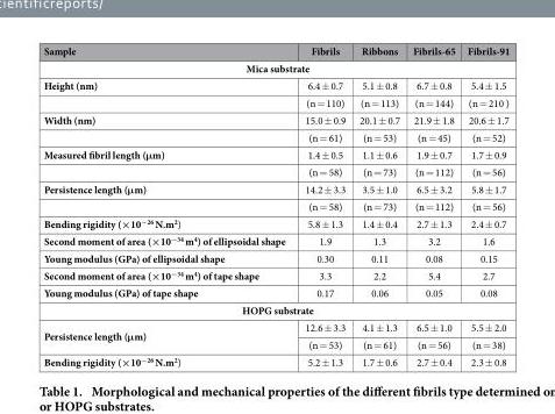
<table><thead><tr><td>Sample</td><td>Fibrils</td><td>Ribbons</td><td>Fibrils-65</td><td>Fibrils-91</td></tr></thead><tbody><tr><td colspan="5">Mica substrate</td></tr><tr><td rowspan="2">Height (nm)</td><td>6.4 ± 0.7</td><td>5.1 ± 0.8</td><td>6.7 ± 0.8</td><td>5.4 ± 1.5</td></tr><tr><td>(n = 110)</td><td>(n = 113)</td><td>(n = 144)</td><td>(n = 210 )</td></tr><tr><td rowspan="2">Width (nm)</td><td>15.0 ± 0.9</td><td>20.1 ± 0.7</td><td>21.9 ± 1.8</td><td>20.6 ± 1.7</td></tr><tr><td>(n = 61)</td><td>(n = 53)</td><td>(n = 45)</td><td>(n = 52)</td></tr><tr><td rowspan="2">Measured fibril length (μm)</td><td>1.4 ± 0.5</td><td>1.1 ± 0.6</td><td>1.9 ± 0.7</td><td>1.7 ± 0.9</td></tr><tr><td>(n = 58)</td><td>(n = 73)</td><td>(n = 112)</td><td>(n = 56)</td></tr><tr><td rowspan="2">Persistence length (μm)</td><td>14.2 ± 3.3</td><td>3.5 ± 1.0</td><td>6.5 ± 3.2</td><td>5.8 ± 1.7</td></tr><tr><td>(n = 58)</td><td>(n = 73)</td><td>(n = 112)</td><td>(n = 56)</td></tr><tr><td>Bending rigidity (×10<sup>−26</sup> N.m<sup>2</sup>)</td><td>5.8 ± 1.3</td><td>1.4 ± 0.4</td><td>2.7 ± 1.3</td><td>2.4 ± 0.7</td></tr><tr><td>Second moment of area (×10<sup>−34</sup> m<sup>4</sup>) of ellipsoidal shape</td><td>1.9</td><td>1.3</td><td>3.2</td><td>1.6</td></tr><tr><td>Young modulus (GPa) of ellipsoidal shape</td><td>0.30</td><td>0.11</td><td>0.08</td><td>0.15</td></tr><tr><td>Second moment of area (×10<sup>−34</sup> m<sup>4</sup>) of tape shape</td><td>3.3</td><td>2.2</td><td>5.4</td><td>2.7</td></tr><tr><td>Young modulus (GPa) of tape shape</td><td>0.17</td><td>0.06</td><td>0.05</td><td>0.08</td></tr><tr><td colspan="5">HOPG substrate</td></tr><tr><td rowspan="2">Persistence length (μm)</td><td>12.6 ± 3.3</td><td>4.1 ± 1.3</td><td>6.5 ± 1.0</td><td>5.5 ± 2.0</td></tr><tr><td>(n = 53)</td><td>(n = 61)</td><td>(n = 56)</td><td>(n = 38)</td></tr><tr><td>Bending rigidity (×10<sup>−26</sup> N.m<sup>2</sup>)</td><td>5.2 ± 1.3</td><td>1.7 ± 0.6</td><td>2.7 ± 0.4</td><td>2.3 ± 0.8</td></tr></tbody></table>